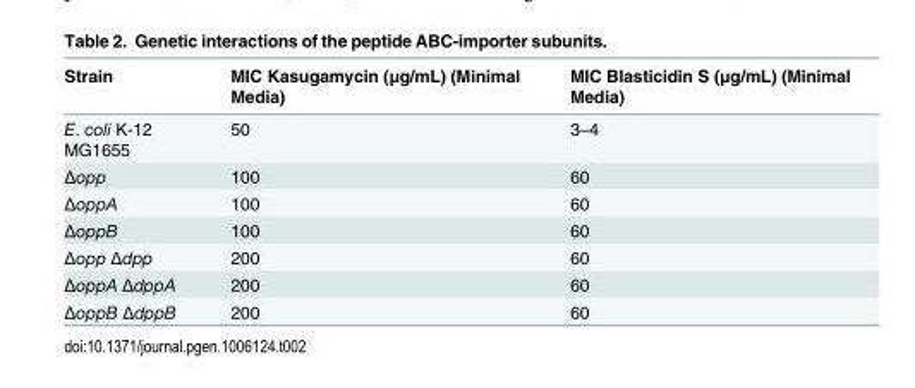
<table><thead><tr><td>Strain</td><td>MIC Kasugamycin (μg/mL) (Minimal Media)</td><td>MIC Blasticidin S (μg/mL) (Minimal Media)</td></tr></thead><tbody><tr><td>E. coli K-12 MG1655</td><td>50</td><td>3–4</td></tr><tr><td>Δopp</td><td>100</td><td>60</td></tr><tr><td>ΔoppA</td><td>100</td><td>60</td></tr><tr><td>ΔoppB</td><td>100</td><td>60</td></tr><tr><td>Δopp Δdpp</td><td>200</td><td>60</td></tr><tr><td>ΔoppA ΔdppA</td><td>200</td><td>60</td></tr><tr><td>ΔoppB ΔdppB</td><td>200</td><td>60</td></tr></tbody></table>